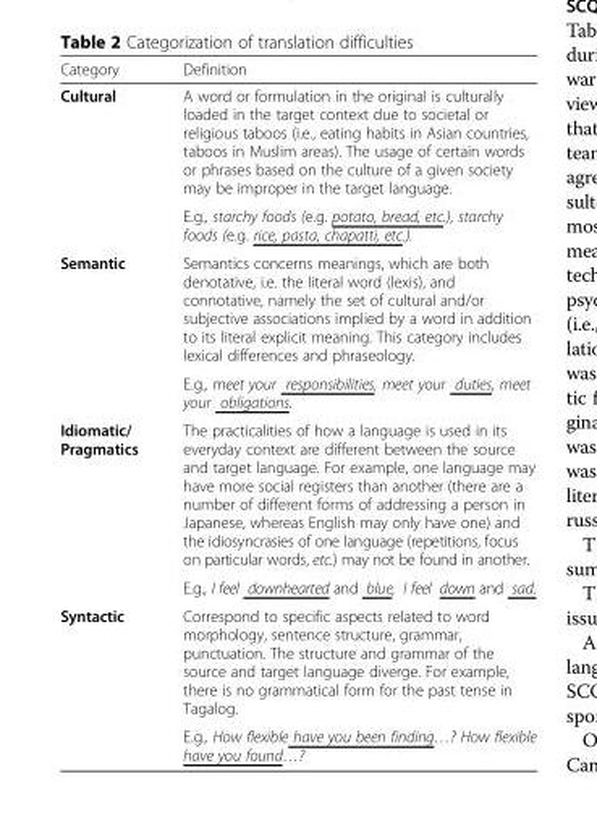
<table><thead><tr><td>Category</td><td>Definition</td></tr></thead><tbody><tr><td rowspan="2">Cultural</td><td>A word or formulation in the original is culturally loaded in the target context due to societal or religious taboos (i.e., eating habits in Asian countries, taboos in Muslim areas). The usage of certain words or phrases based on the culture of a given society may be improper in the target language.</td></tr><tr><td>E.g., starchy foods (e.g. potato, bread, etc.), starchy foods (e.g. rice, pasta, chapatti, etc.).</td></tr><tr><td rowspan="2">Semantic</td><td>Semantics concerns meanings, which are both denotative, i.e. the literal word (lexis), and connotative, namely the set of cultural and/or subjective associations implied by a word in addition to its literal explicit meaning. This category includes lexical differences and phraseology.</td></tr><tr><td>E.g., meet your responsibilities, meet your duties, meet your obligations.</td></tr><tr><td rowspan="2">Idiomatic/ Pragmatics</td><td>The practicalities of how a language is used in its everyday context are different between the source and target language. For example, one language may have more social registers than another (there are a number of different forms of addressing a person in Japanese, whereas English may only have one) and the idiosyncrasies of one language (repetitions, focus on particular words, etc.) may not be found in another.</td></tr><tr><td>E.g., I feel downhearted and blue, I feel down and sad.</td></tr><tr><td rowspan="2">Syntactic</td><td>Correspond to specific aspects related to word morphology, sentence structure, grammar, punctuation. The structure and grammar of the source and target language diverge. For example, there is no grammatical form for the past tense in Tagalog.</td></tr><tr><td>E.g., How flexible have you been finding…? How flexible have you found…?</td></tr></tbody></table>